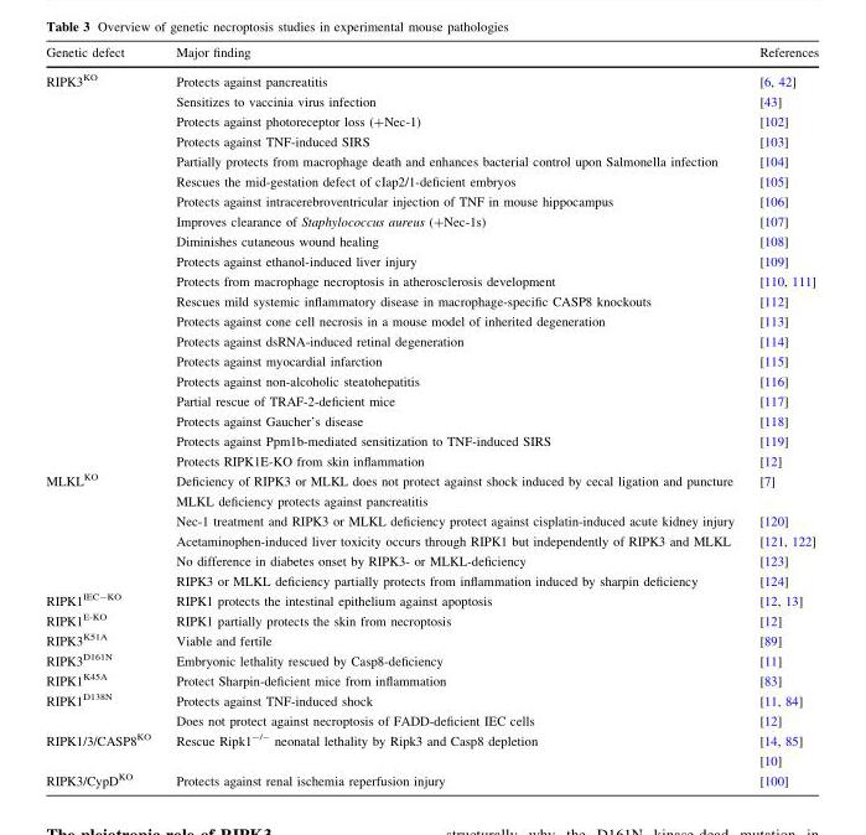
<table><thead><tr><td>Genetic defect</td><td>Major finding</td><td>References</td></tr></thead><tbody><tr><td rowspan="20">RIPK3<sup>KO</sup></td><td>Protects against pancreatitis</td><td>[6, 42]</td></tr><tr><td>Sensitizes to vaccinia virus infection</td><td>[43]</td></tr><tr><td>Protects against photoreceptor loss (+Nec-1)</td><td>[102]</td></tr><tr><td>Protects against TNF-induced SIRS</td><td>[103]</td></tr><tr><td>Partially protects from macrophage death and enhances bacterial control upon Salmonella infection</td><td>[104]</td></tr><tr><td>Rescues the mid-gestation defect of cIap2/1-deficient embryos</td><td>[105]</td></tr><tr><td>Protects against intracerebroventricular injection of TNF in mouse hippocampus</td><td>[106]</td></tr><tr><td>Improves clearance of Staphylococcus aureus (+Nec-1s)</td><td>[107]</td></tr><tr><td>Diminishes cutaneous wound healing</td><td>[108]</td></tr><tr><td>Protects against ethanol-induced liver injury</td><td>[109]</td></tr><tr><td>Protects from macrophage necroptosis in atherosclerosis development</td><td>[110, 111]</td></tr><tr><td>Rescues mild systemic inflammatory disease in macrophage-specific CASP8 knockouts</td><td>[112]</td></tr><tr><td>Protects against cone cell necrosis in a mouse model of inherited degeneration</td><td>[113]</td></tr><tr><td>Protects against dsRNA-induced retinal degeneration</td><td>[114]</td></tr><tr><td>Protects against myocardial infarction</td><td>[115]</td></tr><tr><td>Protects against non-alcoholic steatohepatitis</td><td>[116]</td></tr><tr><td>Partial rescue of TRAF-2-deficient mice</td><td>[117]</td></tr><tr><td>Protects against Gaucher’s disease</td><td>[118]</td></tr><tr><td>Protects against Ppm1b-mediated sensitization to TNF-induced SIRS</td><td>[119]</td></tr><tr><td>Protects RIPK1E-KO from skin inflammation</td><td>[12]</td></tr><tr><td rowspan="5">MLKL<sup>KO</sup></td><td>Deficiency of RIPK3 or MLKL does not protect against shock induced by cecal ligation and puncture MLKL deficiency protects against pancreatitis</td><td>[7]</td></tr><tr><td>Nec-1 treatment and RIPK3 or MLKL deficiency protect against cisplatin-induced acute kidney injury</td><td>[120]</td></tr><tr><td>Acetaminophen-induced liver toxicity occurs through RIPK1 but independently of RIPK3 and MLKL</td><td>[121, 122]</td></tr><tr><td>No difference in diabetes onset by RIPK3- or MLKL-deficiency</td><td>[123]</td></tr><tr><td>RIPK3 or MLKL deficiency partially protects from inflammation induced by sharpin deficiency</td><td>[124]</td></tr><tr><td>RIPK1<sup>IEC-KO</sup></td><td>RIPK1 protects the intestinal epithelium against apoptosis</td><td>[12, 13]</td></tr><tr><td>RIPK1<sup>E-KO</sup></td><td>RIPK1 partially protects the skin from necroptosis</td><td>[12]</td></tr><tr><td>RIPK3<sup>K51A</sup></td><td>Viable and fertile</td><td>[89]</td></tr><tr><td>RIPK3<sup>D161N</sup></td><td>Embryonic lethality rescued by Casp8-deficiency</td><td>[11]</td></tr><tr><td>RIPK1<sup>K45A</sup></td><td>Protect Sharpin-deficient mice from inflammation</td><td>[83]</td></tr><tr><td rowspan="2">RIPK1<sup>D138N</sup></td><td>Protects against TNF-induced shock</td><td>[11, 84]</td></tr><tr><td>Does not protect against necroptosis of FADD-deficient IEC cells</td><td>[12]</td></tr><tr><td>RIPK1/3/CASP8<sup>KO</sup></td><td>Rescue Ripk1<sup>-/-</sup> neonatal lethality by Ripk3 and Casp8 depletion</td><td>[14, 85] [10]</td></tr><tr><td>RIPK3/CypD<sup>KO</sup></td><td>Protects against renal ischemia reperfusion injury</td><td>[100]</td></tr></tbody></table>